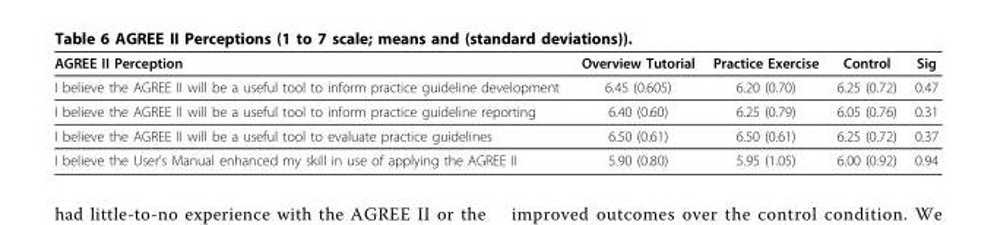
<table><thead><tr><td>AGREE II Perception</td><td>Overview Tutorial</td><td>Practice Exercise</td><td>Control</td><td>Sig</td></tr></thead><tbody><tr><td>I believe the AGREE II will be a useful tool to inform practice guideline development</td><td>6.45 (0.605)</td><td>6.20 (0.70)</td><td>6.25 (0.72)</td><td>0.47</td></tr><tr><td>I believe the AGREE II will be a useful tool to inform practice guideline reporting</td><td>6.40 (0.60)</td><td>6.25 (0.79)</td><td>6.05 (0.76)</td><td>0.31</td></tr><tr><td>I believe the AGREE II will be a useful tool to evaluate practice guidelines</td><td>6.50 (0.61)</td><td>6.50 (0.61)</td><td>6.25 (0.72)</td><td>0.37</td></tr><tr><td>I believe the User’s Manual enhanced my skill in use of applying the AGREE II</td><td>5.90 (0.80)</td><td>5.95 (1.05)</td><td>6.00 (0.92)</td><td>0.94</td></tr></tbody></table>